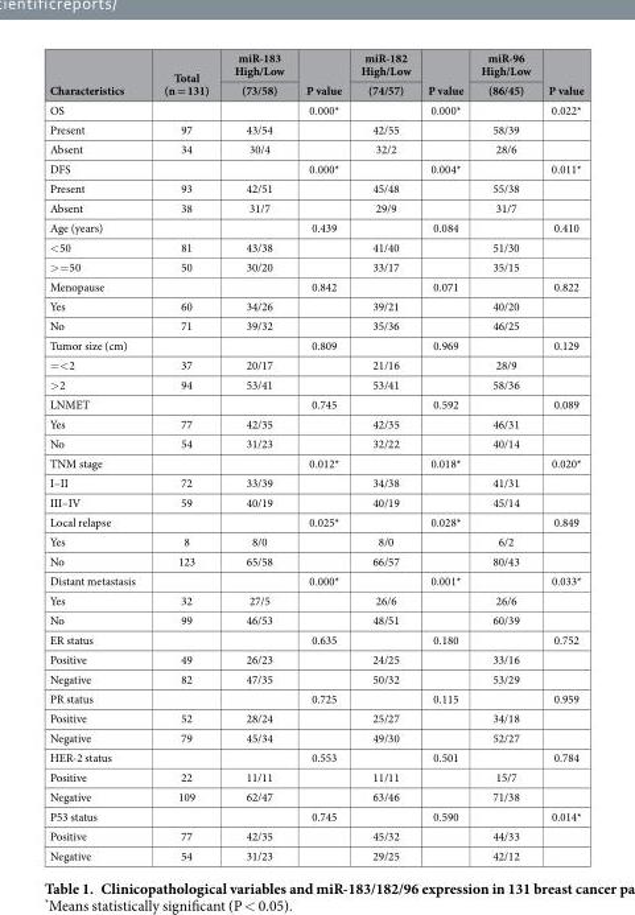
<table><thead><tr><td rowspan="2">Characteristics</td><td rowspan="2">Total (n = 131)</td><td rowspan="2">miR-183 High/Low (73/58)</td><td rowspan="2">P value</td><td rowspan="2">miR-182 High/Low (74/57)</td><td rowspan="2">P value</td><td rowspan="2">miR-96 High/Low (86/45)</td><td rowspan="2">P value</td></tr><tr></tr></thead><tbody><tr><td>OS</td><td></td><td></td><td>0.000*</td><td></td><td>0.000*</td><td></td><td>0.022*</td></tr><tr><td>Present</td><td>97</td><td>43/54</td><td></td><td>42/55</td><td></td><td>58/39</td><td></td></tr><tr><td>Absent</td><td>34</td><td>30/4</td><td></td><td>32/2</td><td></td><td>28/6</td><td></td></tr><tr><td>DFS</td><td></td><td></td><td>0.000*</td><td></td><td>0.004*</td><td></td><td>0.011*</td></tr><tr><td>Present</td><td>93</td><td>42/51</td><td></td><td>45/48</td><td></td><td>55/38</td><td></td></tr><tr><td>Absent</td><td>38</td><td>31/7</td><td></td><td>29/9</td><td></td><td>31/7</td><td></td></tr><tr><td>Age (years)</td><td></td><td></td><td>0.439</td><td></td><td>0.084</td><td></td><td>0.410</td></tr><tr><td>&lt; 50</td><td>81</td><td>43/38</td><td></td><td>41/40</td><td></td><td>51/30</td><td></td></tr><tr><td>&gt; = 50</td><td>50</td><td>30/20</td><td></td><td>33/17</td><td></td><td>35/15</td><td></td></tr><tr><td>Menopause</td><td></td><td></td><td>0.842</td><td></td><td>0.071</td><td></td><td>0.822</td></tr><tr><td>Yes</td><td>60</td><td>34/26</td><td></td><td>39/21</td><td></td><td>40/20</td><td></td></tr><tr><td>No</td><td>71</td><td>39/32</td><td></td><td>35/36</td><td></td><td>46/25</td><td></td></tr><tr><td>Tumor size (cm)</td><td></td><td></td><td>0.809</td><td></td><td>0.969</td><td></td><td>0.129</td></tr><tr><td>= &lt; 2</td><td>37</td><td>20/17</td><td></td><td>21/16</td><td></td><td>28/9</td><td></td></tr><tr><td>&gt; 2</td><td>94</td><td>53/41</td><td></td><td>53/41</td><td></td><td>58/36</td><td></td></tr><tr><td>LNMET</td><td></td><td></td><td>0.745</td><td></td><td>0.592</td><td></td><td>0.089</td></tr><tr><td>Yes</td><td>77</td><td>42/35</td><td></td><td>42/35</td><td></td><td>46/31</td><td></td></tr><tr><td>No</td><td>54</td><td>31/23</td><td></td><td>32/22</td><td></td><td>40/14</td><td></td></tr><tr><td>TNM stage</td><td></td><td></td><td>0.012*</td><td></td><td>0.018*</td><td></td><td>0.020*</td></tr><tr><td>I–II</td><td>72</td><td>33/39</td><td></td><td>34/38</td><td></td><td>41/31</td><td></td></tr><tr><td>III–IV</td><td>59</td><td>40/19</td><td></td><td>40/19</td><td></td><td>45/14</td><td></td></tr><tr><td>Local relapse</td><td></td><td></td><td>0.025*</td><td></td><td>0.028*</td><td></td><td>0.849</td></tr><tr><td>Yes</td><td>8</td><td>8/0</td><td></td><td>8/0</td><td></td><td>6/2</td><td></td></tr><tr><td>No</td><td>123</td><td>65/58</td><td></td><td>66/57</td><td></td><td>80/43</td><td></td></tr><tr><td>Distant metastasis</td><td></td><td></td><td>0.000*</td><td></td><td>0.001*</td><td></td><td>0.033*</td></tr><tr><td>Yes</td><td>32</td><td>27/5</td><td></td><td>26/6</td><td></td><td>26/6</td><td></td></tr><tr><td>No</td><td>99</td><td>46/53</td><td></td><td>48/51</td><td></td><td>60/39</td><td></td></tr><tr><td>ER status</td><td></td><td></td><td>0.635</td><td></td><td>0.180</td><td></td><td>0.752</td></tr><tr><td>Positive</td><td>49</td><td>26/23</td><td></td><td>24/25</td><td></td><td>33/16</td><td></td></tr><tr><td>Negative</td><td>82</td><td>47/35</td><td></td><td>50/32</td><td></td><td>53/29</td><td></td></tr><tr><td>PR status</td><td></td><td></td><td>0.725</td><td></td><td>0.115</td><td></td><td>0.959</td></tr><tr><td>Positive</td><td>52</td><td>28/24</td><td></td><td>25/27</td><td></td><td>34/18</td><td></td></tr><tr><td>Negative</td><td>79</td><td>45/34</td><td></td><td>49/30</td><td></td><td>52/27</td><td></td></tr><tr><td>HER-2 status</td><td></td><td></td><td>0.553</td><td></td><td>0.501</td><td></td><td>0.784</td></tr><tr><td>Positive</td><td>22</td><td>11/11</td><td></td><td>11/11</td><td></td><td>15/7</td><td></td></tr><tr><td>Negative</td><td>109</td><td>62/47</td><td></td><td>63/46</td><td></td><td>71/38</td><td></td></tr><tr><td>P53 status</td><td></td><td></td><td>0.745</td><td></td><td>0.590</td><td></td><td>0.014*</td></tr><tr><td>Positive</td><td>77</td><td>42/35</td><td></td><td>45/32</td><td></td><td>44/33</td><td></td></tr><tr><td>Negative</td><td>54</td><td>31/23</td><td></td><td>29/25</td><td></td><td>42/12</td><td></td></tr></tbody></table>